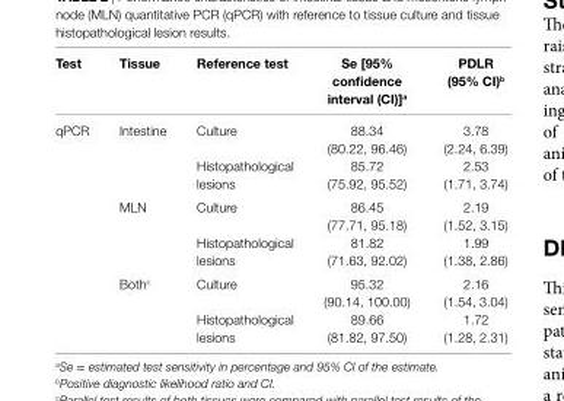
<table><thead><tr><td>Test</td><td>Tissue</td><td>reference test</td><td>se [95% confidence interval (ci)]<sup>a</sup></td><td>PDlr (95% ci)<sup>b</sup></td></tr></thead><tbody><tr><td rowspan="6">qPCR</td><td rowspan="2">Intestine</td><td>Culture</td><td>88.34 (80.22, 96.46)</td><td>3.78 (2.24, 6.39)</td></tr><tr><td>Histopathological lesions</td><td>85.72 (75.92, 95.52)</td><td>2.53 (1.71, 3.74)</td></tr><tr><td rowspan="2">MLN</td><td>Culture</td><td>86.45 (77.71, 95.18)</td><td>2.19 (1.52, 3.15)</td></tr><tr><td>Histopathological lesions</td><td>81.82 (71.63, 92.02)</td><td>1.99 (1.38, 2.86)</td></tr><tr><td rowspan="2">Both<sup>c</sup></td><td>Culture</td><td>95.32 (90.14, 100.00)</td><td>2.16 (1.54, 3.04)</td></tr><tr><td>Histopathological lesions</td><td>89.66 (81.82, 97.50)</td><td>1.72 (1.28, 2.31)</td></tr></tbody></table>